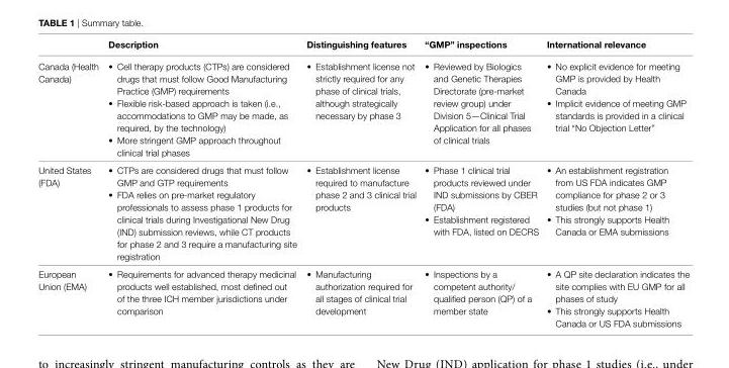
<table><thead><tr><td></td><td>Description</td><td>Distinguishing features</td><td>“GMp” inspections</td><td>international relevance</td></tr></thead><tbody><tr><td>Canada (Health Canada)</td><td>• Cell therapy products (CTPs) are considered drugs that must follow Good Manufacturing Practice (GMP) requirements • Flexible risk-based approach is taken (i.e., accommodations to GMP may be made, as required, by the technology) • More stringent GMP approach throughout clinical trial phases</td><td>• Establishment license not strictly required for any phase of clinical trials, although strategically necessary by phase 3</td><td>• Reviewed by Biologics and Genetic Therapies Directorate (pre-market review group) under Division 5—Clinical Trial Application for all phases of clinical trials</td><td>• No explicit evidence for meeting GMP is provided by Health Canada • Implicit evidence of meeting GMP standards is provided in a clinical trial “No Objection Letter”</td></tr><tr><td>United States (FDA)</td><td>• CTPs are considered drugs that must follow GMP and GTP requirements • FDA relies on pre-market regulatory professionals to assess phase 1 products for clinical trials during Investigational New Drug (IND) submission reviews, while CT products for phase 2 and 3 require a manufacturing site registration</td><td>• Establishment license required to manufacture phase 2 and 3 clinical trial products</td><td>• Phase 1 clinical trial products reviewed under IND submissions by CBER (FDA) • Establishment registered with FDA, listed on DECRS</td><td>• An establishment registration from US FDA indicates GMP compliance for phase 2 or 3 studies (but not phase 1) • This strongly supports Health Canada or EMA submissions</td></tr><tr><td>European Union (EMA)</td><td>• Requirements for advanced therapy medicinal products well established, most defined out of the three ICH member jurisdictions under comparison</td><td>• Manufacturing authorization required for all stages of clinical trial development</td><td>• Inspections by a competent authority/ qualified person (QP) of a member state</td><td>• A QP site declaration indicates the site complies with EU GMP for all phases of study • This strongly supports Health Canada or US FDA submissions</td></tr></tbody></table>